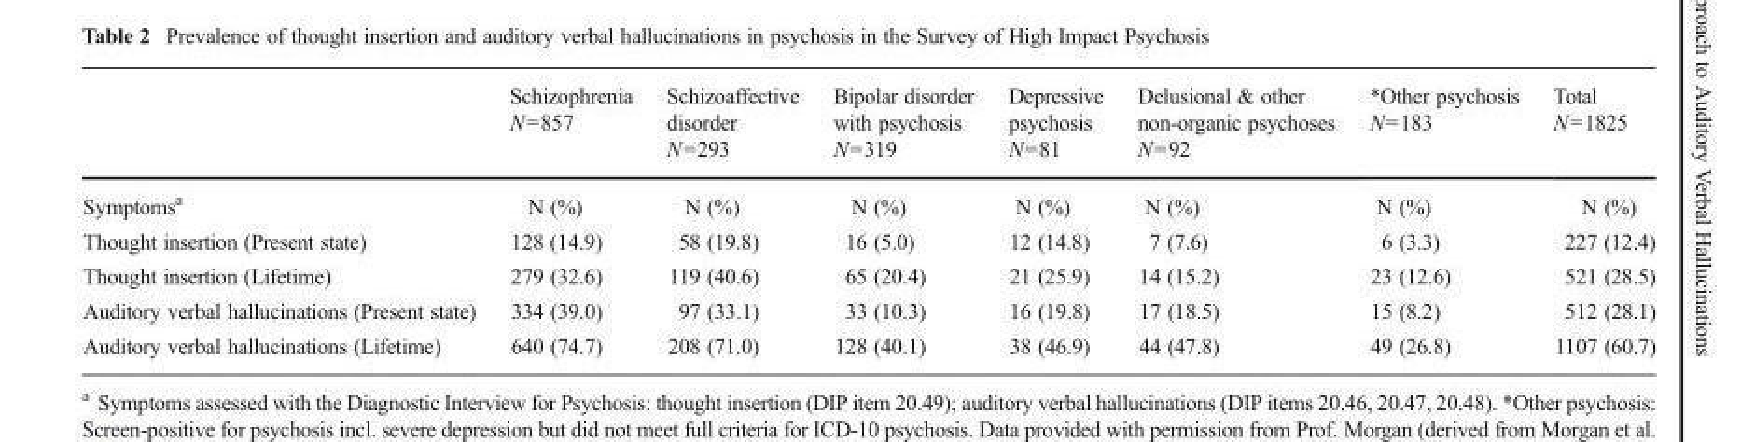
<table><thead><tr><td></td><td>Schizophrenia N=857</td><td>Schizoaffective disorder N=293</td><td>Bipolar disorder with psychosis N=319</td><td>Depressive psychosis N=81</td><td>Delusional &amp; other non-organic psychoses N=92</td><td>*Other psychosis N=183</td><td>Total N=1825</td></tr></thead><tbody><tr><td>Symptoms<sup>a</sup></td><td>N (%)</td><td>N (%)</td><td>N (%)</td><td>N (%)</td><td>N (%)</td><td>N (%)</td><td>N (%)</td></tr><tr><td>Thought insertion (Present state)</td><td>128 (14.9)</td><td>58 (19.8)</td><td>16 (5.0)</td><td>12 (14.8)</td><td>7 (7.6)</td><td>6 (3.3)</td><td>227 (12.4)</td></tr><tr><td>Thought insertion (Lifetime)</td><td>279 (32.6)</td><td>119 (40.6)</td><td>65 (20.4)</td><td>21 (25.9)</td><td>14 (15.2)</td><td>23 (12.6)</td><td>521 (28.5)</td></tr><tr><td>Auditory verbal hallucinations (Present state)</td><td>334 (39.0)</td><td>97 (33.1)</td><td>33 (10.3)</td><td>16 (19.8)</td><td>17 (18.5)</td><td>15 (8.2)</td><td>512 (28.1)</td></tr><tr><td>Auditory verbal hallucinations (Lifetime)</td><td>640 (74.7)</td><td>208 (71.0)</td><td>128 (40.1)</td><td>38 (46.9)</td><td>44 (47.8)</td><td>49 (26.8)</td><td>1107 (60.7)</td></tr></tbody></table>